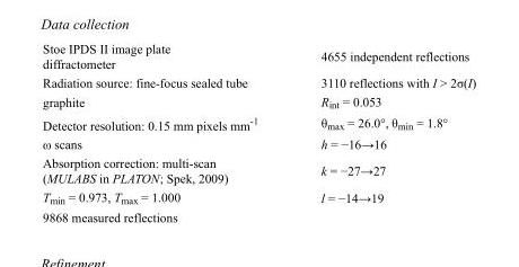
<table><tbody><tr><td>Stoe IPDS II image plate diffractometer</td><td>4655 independent reflections</td></tr><tr><td>Radiation source: fine-focus sealed tube</td><td>3110 reflections with I &gt; 2σ(I)</td></tr><tr><td>graphite</td><td>R<sub>int</sub> = 0.053</td></tr><tr><td>Detector resolution: 0.15 mm pixels mm<sup>-1</sup></td><td>θ<sub>max</sub> = 26.0°, θ<sub>min</sub> = 1.8°</td></tr><tr><td>ω scans</td><td>h = −16→16</td></tr><tr><td>Absorption correction: multi-scan (MULABS in PLATON; Spek, 2009)</td><td>k = −27→27</td></tr><tr><td>T<sub>min</sub> = 0.973, T<sub>max</sub> = 1.000</td><td>l = −14→19</td></tr><tr><td>9868 measured reflections</td><td></td></tr></tbody></table>